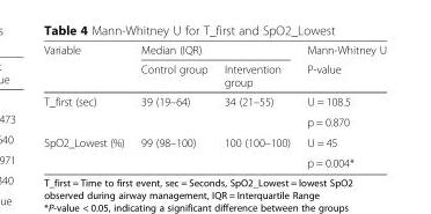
<table><thead><tr><td rowspan="2">Variable</td><td colspan="2">Median (IQR)</td><td rowspan="2">Mann-Whitney U P-value</td></tr><tr><td>Control group</td><td>Intervention group</td></tr></thead><tbody><tr><td rowspan="2">T_first (sec)</td><td rowspan="2">39 (19–64)</td><td rowspan="2">34 (21–55)</td><td>U = 108.5</td></tr><tr><td>p = 0.870</td></tr><tr><td rowspan="2">SpO2_Lowest (%)</td><td rowspan="2">99 (98–100)</td><td rowspan="2">100 (100–100)</td><td>U = 45</td></tr><tr><td>p = 0.004*</td></tr></tbody></table>